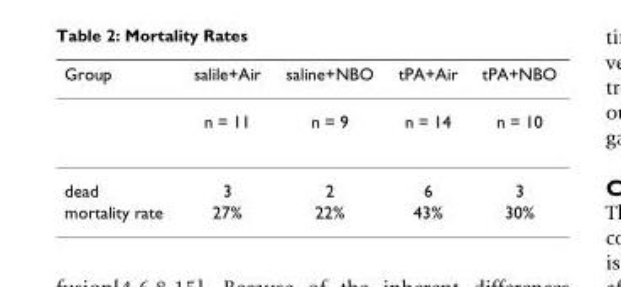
<table><thead><tr><td>Group</td><td>salile+Air</td><td>saline+NBO</td><td>tPA+Air</td><td>tPA+NBO</td></tr></thead><tbody><tr><td></td><td>n = 11</td><td>n = 9</td><td>n = 14</td><td>n = 10</td></tr><tr><td>dead</td><td>3</td><td>2</td><td>6</td><td>3</td></tr><tr><td>mortality rate</td><td>27%</td><td>22%</td><td>43%</td><td>30%</td></tr></tbody></table>